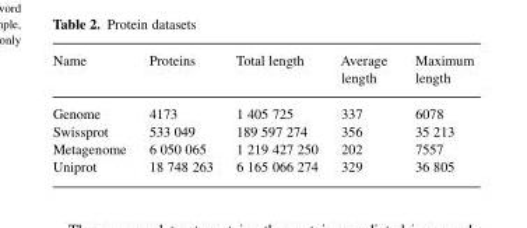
<table><thead><tr><td>Name</td><td>Proteins</td><td>Total length</td><td>Average length</td><td>Maximum length</td></tr></thead><tbody><tr><td>Genome</td><td>4173</td><td>1 405 725</td><td>337</td><td>6078</td></tr><tr><td>Swissprot</td><td>533 049</td><td>189 597 274</td><td>356</td><td>35 213</td></tr><tr><td>Metagenome</td><td>6 050 065</td><td>1 219 427 250</td><td>202</td><td>7557</td></tr><tr><td>Uniprot</td><td>18 748 263</td><td>6 165 066 274</td><td>329</td><td>36 805</td></tr></tbody></table>